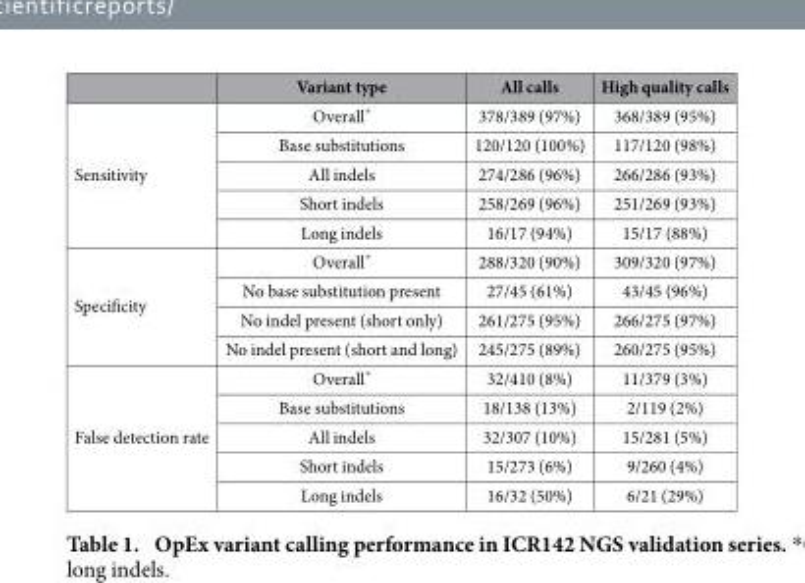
<table><thead><tr><td></td><td>Variant type</td><td>All calls</td><td>High quality calls</td></tr></thead><tbody><tr><td rowspan="5">Sensitivity</td><td>Overall*</td><td>378/389 (97%)</td><td>368/389 (95%)</td></tr><tr><td>Base substitutions</td><td>120/120 (100%)</td><td>117/120 (98%)</td></tr><tr><td>All indels</td><td>274/286 (96%)</td><td>266/286 (93%)</td></tr><tr><td>Short indels</td><td>258/269 (96%)</td><td>251/269 (93%)</td></tr><tr><td>Long indels</td><td>16/17 (94%)</td><td>15/17 (88%)</td></tr><tr><td rowspan="4">Specificity</td><td>Overall*</td><td>288/320 (90%)</td><td>309/320 (97%)</td></tr><tr><td>No base substitution present</td><td>27/45 (61%)</td><td>43/45 (96%)</td></tr><tr><td>No indel present (short only)</td><td>261/275 (95%)</td><td>266/275 (97%)</td></tr><tr><td>No indel present (short and long)</td><td>245/275 (89%)</td><td>260/275 (95%)</td></tr><tr><td rowspan="5">False detection rate</td><td>Overall*</td><td>32/410 (8%)</td><td>11/379 (3%)</td></tr><tr><td>Base substitutions</td><td>18/138 (13%)</td><td>2/119 (2%)</td></tr><tr><td>All indels</td><td>32/307 (10%)</td><td>15/281 (5%)</td></tr><tr><td>Short indels</td><td>15/273 (6%)</td><td>9/260 (4%)</td></tr><tr><td>Long indels</td><td>16/32 (50%)</td><td>6/21 (29%)</td></tr></tbody></table>